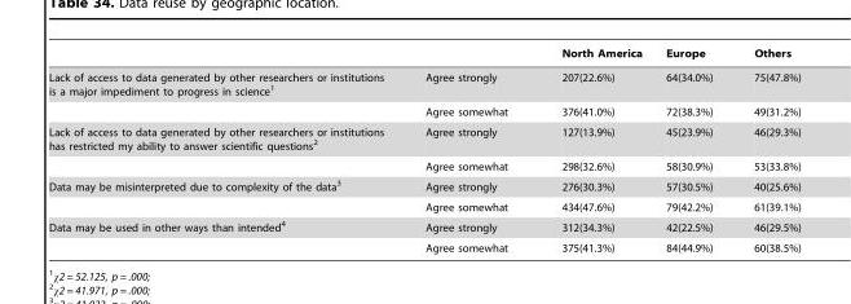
<table><thead><tr><td></td><td></td><td>North America</td><td>Europe</td><td>Others</td></tr></thead><tbody><tr><td rowspan="2">Lack of access to data generated by other researchers or institutions is a major impediment to progress in science<sup>1</sup></td><td>Agree strongly</td><td>207(22.6%)</td><td>64(34.0%)</td><td>75(47.8%)</td></tr><tr><td>Agree somewhat</td><td>376(41.0%)</td><td>72(38.3%)</td><td>49(31.2%)</td></tr><tr><td rowspan="2">Lack of access to data generated by other researchers or institutions has restricted my ability to answer scientific questions<sup>2</sup></td><td>Agree strongly</td><td>127(13.9%)</td><td>45(23.9%)</td><td>46(29.3%)</td></tr><tr><td>Agree somewhat</td><td>298(32.6%)</td><td>58(30.9%)</td><td>53(33.8%)</td></tr><tr><td rowspan="2">Data may be misinterpreted due to complexity of the data<sup>3</sup></td><td>Agree strongly</td><td>276(30.3%)</td><td>57(30.5%)</td><td>40(25.6%)</td></tr><tr><td>Agree somewhat</td><td>434(47.6%)</td><td>79(42.2%)</td><td>61(39.1%)</td></tr><tr><td rowspan="2">Data may be used in other ways than intended<sup>4</sup></td><td>Agree strongly</td><td>312(34.3%)</td><td>42(22.5%)</td><td>46(29.5%)</td></tr><tr><td>Agree somewhat</td><td>375(41.3%)</td><td>84(44.9%)</td><td>60(38.5%)</td></tr></tbody></table>